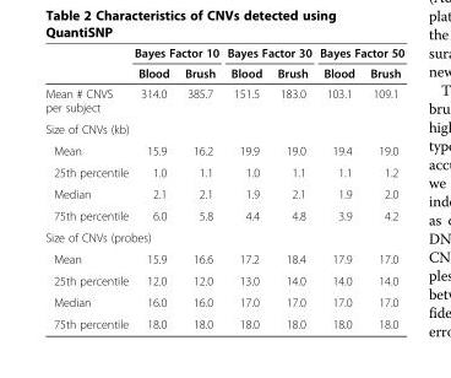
<table><thead><tr><td rowspan="2"></td><td colspan="2">Bayes Factor 10</td><td colspan="2">Bayes Factor 30</td><td colspan="2">Bayes Factor 50</td></tr><tr><td>Blood</td><td>Brush</td><td>Blood</td><td>Brush</td><td>Blood</td><td>Brush</td></tr></thead><tbody><tr><td>Mean # CNVS per subject</td><td>314.0</td><td>385.7</td><td>151.5</td><td>183.0</td><td>103.1</td><td>109.1</td></tr><tr><td colspan="7">Size of CNVs (kb)</td></tr><tr><td>Mean</td><td>15.9</td><td>16.2</td><td>19.9</td><td>19.0</td><td>19.4</td><td>19.0</td></tr><tr><td>25th percentile</td><td>1.0</td><td>1.1</td><td>1.0</td><td>1.1</td><td>1.1</td><td>1.2</td></tr><tr><td>Median</td><td>2.1</td><td>2.1</td><td>1.9</td><td>2.1</td><td>1.9</td><td>2.0</td></tr><tr><td>75th percentile</td><td>6.0</td><td>5.8</td><td>4.4</td><td>4.8</td><td>3.9</td><td>4.2</td></tr><tr><td colspan="7">Size of CNVs (probes)</td></tr><tr><td>Mean</td><td>15.9</td><td>16.6</td><td>17.2</td><td>18.4</td><td>17.9</td><td>17.0</td></tr><tr><td>25th percentile</td><td>12.0</td><td>12.0</td><td>13.0</td><td>14.0</td><td>14.0</td><td>14.0</td></tr><tr><td>Median</td><td>16.0</td><td>16.0</td><td>17.0</td><td>17.0</td><td>17.0</td><td>17.0</td></tr><tr><td>75th percentile</td><td>18.0</td><td>18.0</td><td>18.0</td><td>18.0</td><td>18.0</td><td>18.0</td></tr></tbody></table>